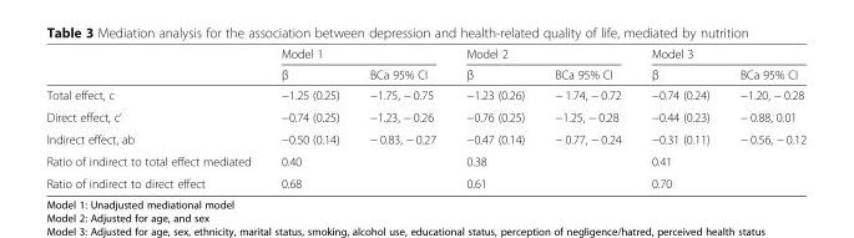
<table><thead><tr><td rowspan="2"></td><td colspan="2">Model 1</td><td colspan="2">Model 2</td><td colspan="2">Model 3</td></tr><tr><td>β</td><td>BCa 95% CI</td><td>β</td><td>BCa 95% CI</td><td>β</td><td>BCa 95% CI</td></tr></thead><tbody><tr><td>Total effect, c</td><td>−1.25 (0.25)</td><td>−1.75, − 0.75</td><td>−1.23 (0.26)</td><td>− 1.74, − 0.72</td><td>−0.74 (0.24)</td><td>−1.20, − 0.28</td></tr><tr><td>Direct effect, c’</td><td>−0.74 (0.25)</td><td>−1.23, − 0.26</td><td>−0.76 (0.25)</td><td>−1.25, − 0.28</td><td>−0.44 (0.23)</td><td>− 0.88, 0.01</td></tr><tr><td>Indirect effect, ab</td><td>−0.50 (0.14)</td><td>− 0.83, − 0.27</td><td>−0.47 (0.14)</td><td>− 0.77, − 0.24</td><td>−0.31 (0.11)</td><td>− 0.56, − 0.12</td></tr><tr><td>Ratio of indirect to total effect mediated</td><td>0.40</td><td></td><td>0.38</td><td></td><td>0.41</td><td></td></tr><tr><td>Ratio of indirect to direct effect</td><td>0.68</td><td></td><td>0.61</td><td></td><td>0.70</td><td></td></tr></tbody></table>